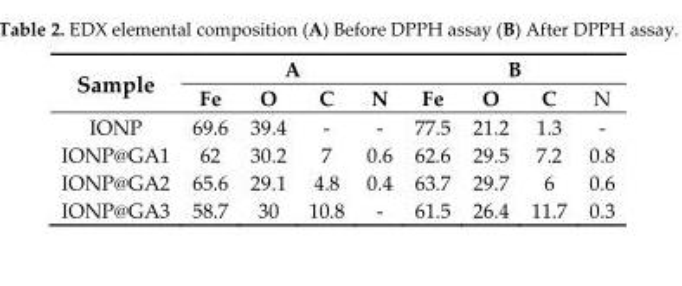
<table><thead><tr><td rowspan="2">Sample</td><td colspan="4">A</td><td colspan="4">B</td></tr><tr><td>Fe</td><td>O</td><td>C</td><td>N</td><td>Fe</td><td>O</td><td>C</td><td>N</td></tr></thead><tbody><tr><td>IONP</td><td>69.6</td><td>39.4</td><td>‐</td><td>‐</td><td>77.5</td><td>21.2</td><td>1.3</td><td>‐</td></tr><tr><td>IONP@GA1</td><td>62</td><td>30.2</td><td>7</td><td>0.6</td><td>62.6</td><td>29.5</td><td>7.2</td><td>0.8</td></tr><tr><td>IONP@GA2</td><td>65.6</td><td>29.1</td><td>4.8</td><td>0.4</td><td>63.7</td><td>29.7</td><td>6</td><td>0.6</td></tr><tr><td>IONP@GA3</td><td>58.7</td><td>30</td><td>10.8</td><td>‐</td><td>61.5</td><td>26.4</td><td>11.7</td><td>0.3</td></tr></tbody></table>